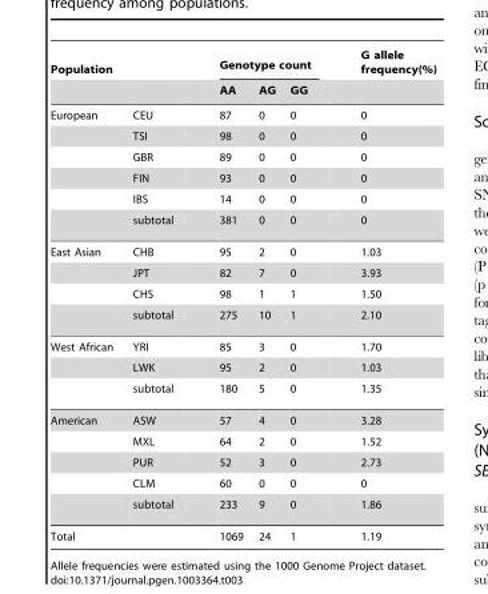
<table><thead><tr><td rowspan="2">Population</td><td rowspan="2"></td><td colspan="3">Genotype count</td><td rowspan="2">G allele frequency(%)</td></tr><tr><td>AA</td><td>AG</td><td>GG</td></tr></thead><tbody><tr><td rowspan="6">European</td><td>CEU</td><td>87</td><td>0</td><td>0</td><td>0</td></tr><tr><td>TSI</td><td>98</td><td>0</td><td>0</td><td>0</td></tr><tr><td>GBR</td><td>89</td><td>0</td><td>0</td><td>0</td></tr><tr><td>FIN</td><td>93</td><td>0</td><td>0</td><td>0</td></tr><tr><td>IBS</td><td>14</td><td>0</td><td>0</td><td>0</td></tr><tr><td>subtotal</td><td>381</td><td>0</td><td>0</td><td>0</td></tr><tr><td rowspan="4">East Asian</td><td>CHB</td><td>95</td><td>2</td><td>0</td><td>1.03</td></tr><tr><td>JPT</td><td>82</td><td>7</td><td>0</td><td>3.93</td></tr><tr><td>CHS</td><td>98</td><td>1</td><td>1</td><td>1.50</td></tr><tr><td>subtotal</td><td>275</td><td>10</td><td>1</td><td>2.10</td></tr><tr><td rowspan="3">West African</td><td>YRI</td><td>85</td><td>3</td><td>0</td><td>1.70</td></tr><tr><td>LWK</td><td>95</td><td>2</td><td>0</td><td>1.03</td></tr><tr><td>subtotal</td><td>180</td><td>5</td><td>0</td><td>1.35</td></tr><tr><td rowspan="5">American</td><td>ASW</td><td>57</td><td>4</td><td>0</td><td>3.28</td></tr><tr><td>MXL</td><td>64</td><td>2</td><td>0</td><td>1.52</td></tr><tr><td>PUR</td><td>52</td><td>3</td><td>0</td><td>2.73</td></tr><tr><td>CLM</td><td>60</td><td>0</td><td>0</td><td>0</td></tr><tr><td>subtotal</td><td>233</td><td>9</td><td>0</td><td>1.86</td></tr><tr><td colspan="2">Total</td><td>1069</td><td>24</td><td>1</td><td>1.19</td></tr></tbody></table>